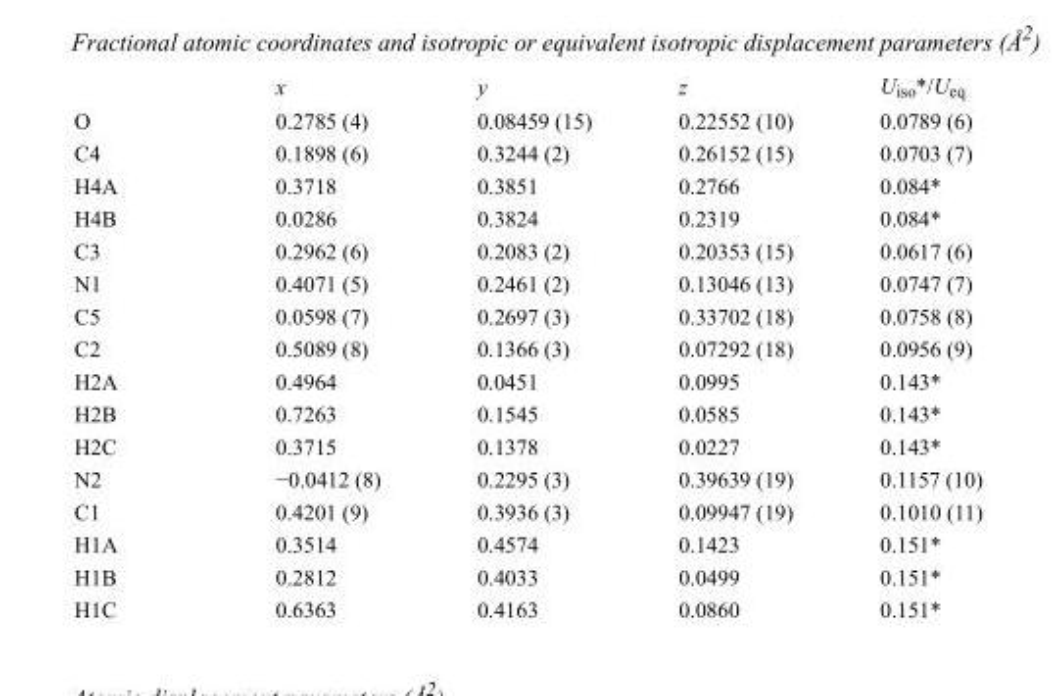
<table><thead><tr><td></td><td>x</td><td>y</td><td>z</td><td>U<sub>iso</sub>*/U<sub>eq</sub></td></tr></thead><tbody><tr><td>O</td><td>0.2785 (4)</td><td>0.08459 (15)</td><td>0.22552 (10)</td><td>0.0789 (6)</td></tr><tr><td>C4</td><td>0.1898 (6)</td><td>0.3244 (2)</td><td>0.26152 (15)</td><td>0.0703 (7)</td></tr><tr><td>H4A</td><td>0.3718</td><td>0.3851</td><td>0.2766</td><td>0.084*</td></tr><tr><td>H4B</td><td>0.0286</td><td>0.3824</td><td>0.2319</td><td>0.084*</td></tr><tr><td>C3</td><td>0.2962 (6)</td><td>0.2083 (2)</td><td>0.20353 (15)</td><td>0.0617 (6)</td></tr><tr><td>N1</td><td>0.4071 (5)</td><td>0.2461 (2)</td><td>0.13046 (13)</td><td>0.0747 (7)</td></tr><tr><td>C5</td><td>0.0598 (7)</td><td>0.2697 (3)</td><td>0.33702 (18)</td><td>0.0758 (8)</td></tr><tr><td>C2</td><td>0.5089 (8)</td><td>0.1366 (3)</td><td>0.07292 (18)</td><td>0.0956 (9)</td></tr><tr><td>H2A</td><td>0.4964</td><td>0.0451</td><td>0.0995</td><td>0.143*</td></tr><tr><td>H2B</td><td>0.7263</td><td>0.1545</td><td>0.0585</td><td>0.143*</td></tr><tr><td>H2C</td><td>0.3715</td><td>0.1378</td><td>0.0227</td><td>0.143*</td></tr><tr><td>N2</td><td>−0.0412 (8)</td><td>0.2295 (3)</td><td>0.39639 (19)</td><td>0.1157 (10)</td></tr><tr><td>C1</td><td>0.4201 (9)</td><td>0.3936 (3)</td><td>0.09947 (19)</td><td>0.1010 (11)</td></tr><tr><td>H1A</td><td>0.3514</td><td>0.4574</td><td>0.1423</td><td>0.151*</td></tr><tr><td>H1B</td><td>0.2812</td><td>0.4033</td><td>0.0499</td><td>0.151*</td></tr><tr><td>H1C</td><td>0.6363</td><td>0.4163</td><td>0.0860</td><td>0.151*</td></tr></tbody></table>